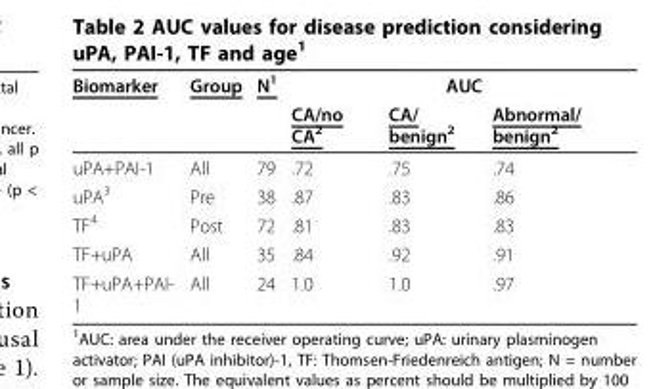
<table><thead><tr><td rowspan="2">Biomarker</td><td rowspan="2">Group</td><td rowspan="2">N<sup>1</sup></td><td colspan="3">AUC</td></tr><tr><td>CA/no CA<sup>2</sup></td><td>CA/ benign<sup>2</sup></td><td>Abnormal/ benign<sup>2</sup></td></tr></thead><tbody><tr><td>uPA+PAI-1</td><td>All</td><td>79</td><td>.72</td><td>.75</td><td>.74</td></tr><tr><td>uPA<sup>3</sup></td><td>Pre</td><td>38</td><td>.87</td><td>.83</td><td>.86</td></tr><tr><td>TF<sup>4</sup></td><td>Post</td><td>72</td><td>.81</td><td>.83</td><td>.83</td></tr><tr><td>TF+uPA</td><td>All</td><td>35</td><td>.84</td><td>.92</td><td>.91</td></tr><tr><td>TF+uPA+PAI- 1</td><td>All</td><td>24</td><td>1.0</td><td>1.0</td><td>.97</td></tr></tbody></table>